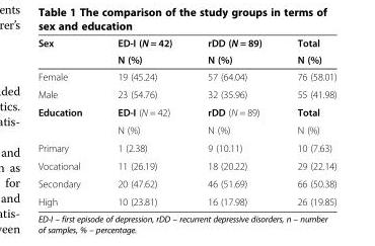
<table><thead><tr><td rowspan="2">Sex</td><td rowspan="2">ED-I (N = 42) N (%)</td><td rowspan="2">rDD (N = 89) N (%)</td><td rowspan="2">Total N (%)</td></tr><tr></tr></thead><tbody><tr><td>Female</td><td>19 (45.24)</td><td>57 (64.04)</td><td>76 (58.01)</td></tr><tr><td>Male</td><td>23 (54.76)</td><td>32 (35.96)</td><td>55 (41.98)</td></tr><tr><td rowspan="2">Education</td><td>ED-I (N = 42)</td><td>rDD (N = 89)</td><td>Total</td></tr><tr><td>N (%)</td><td>N (%)</td><td>N (%)</td></tr><tr><td>Primary</td><td>1 (2.38)</td><td>9 (10.11)</td><td>10 (7.63)</td></tr><tr><td>Vocational</td><td>11 (26.19)</td><td>18 (20.22)</td><td>29 (22.14)</td></tr><tr><td>Secondary</td><td>20 (47.62)</td><td>46 (51.69)</td><td>66 (50.38)</td></tr><tr><td>High</td><td>10 (23.81)</td><td>16 (17.98)</td><td>26 (19.85)</td></tr></tbody></table>